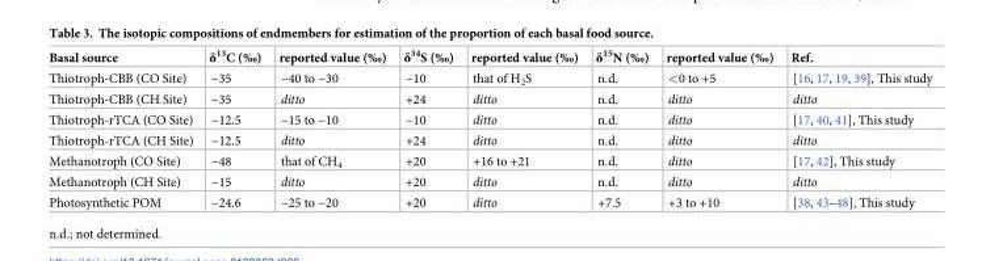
<table><thead><tr><td>Basal source</td><td>δ<sup>13</sup>C (‰)</td><td>reported value (‰)</td><td>δ<sup>34</sup>S (‰)</td><td>reported value (‰)</td><td>δ<sup>15</sup>N (‰)</td><td>reported value (‰)</td><td>Ref.</td></tr></thead><tbody><tr><td>Thiotroph-CBB (CO Site)</td><td>−35</td><td>−40 to −30</td><td>−10</td><td>that of H<sub>2</sub>S</td><td>n.d.</td><td>&lt;0 to +5</td><td>[16, 17, 19, 39], This study</td></tr><tr><td>Thiotroph-CBB (CH Site)</td><td>−35</td><td>ditto</td><td>+24</td><td>ditto</td><td>n.d.</td><td>ditto</td><td>ditto</td></tr><tr><td>Thiotroph-rTCA (CO Site)</td><td>−12.5</td><td>−15 to −10</td><td>−10</td><td>ditto</td><td>n.d.</td><td>ditto</td><td>[17, 40, 41], This study</td></tr><tr><td>Thiotroph-rTCA (CH Site)</td><td>−12.5</td><td>ditto</td><td>+24</td><td>ditto</td><td>n.d.</td><td>ditto</td><td>ditto</td></tr><tr><td>Methanotroph (CO Site)</td><td>−48</td><td>that of CH<sub>4</sub></td><td>+20</td><td>+16 to +21</td><td>n.d.</td><td>ditto</td><td>[17, 42], This study</td></tr><tr><td>Methanotroph (CH Site)</td><td>−15</td><td>ditto</td><td>+20</td><td>ditto</td><td>n.d.</td><td>ditto</td><td>ditto</td></tr><tr><td>Photosynthetic POM</td><td>−24.6</td><td>−25 to −20</td><td>+20</td><td>ditto</td><td>+7.5</td><td>+3 to +10</td><td>[38, 43–48], This study</td></tr></tbody></table>